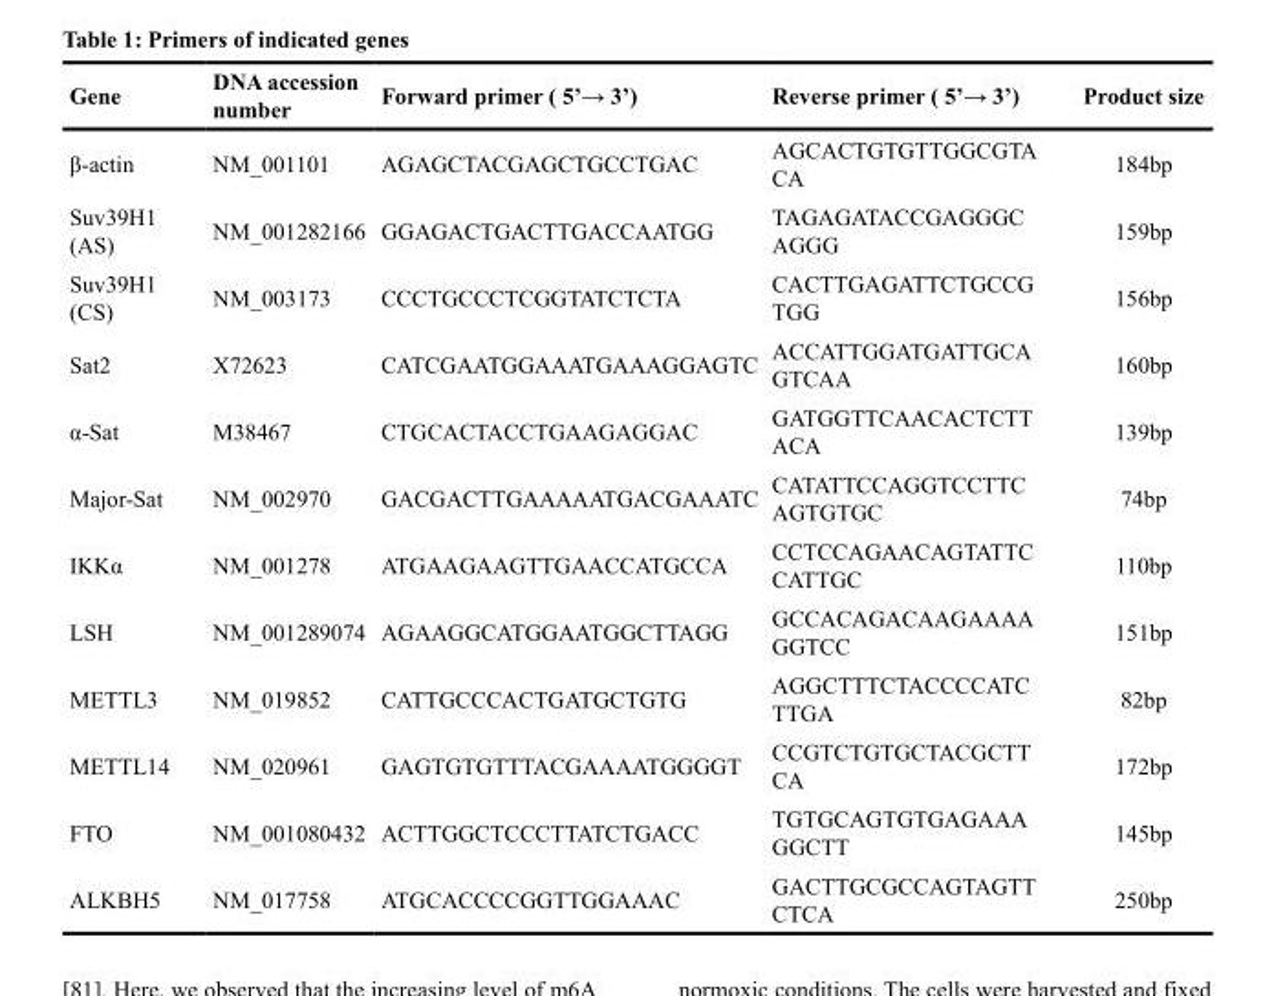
<table><thead><tr><td>Gene</td><td>DNA accession number</td><td>Forward primer ( 5’→ 3’)</td><td>Reverse primer ( 5’→ 3’)</td><td>Product size</td></tr></thead><tbody><tr><td>β-actin</td><td>NM_001101</td><td>AGAGCTACGAGCTGCCTGAC</td><td>AGCACTGTGTTGGCGTA CA</td><td>184bp</td></tr><tr><td>Suv39H1 (AS)</td><td>NM_001282166</td><td>GGAGACTGACTTGACCAATGG</td><td>TAGAGATACCGAGGGC AGGG</td><td>159bp</td></tr><tr><td>Suv39H1 (CS)</td><td>NM_003173</td><td>CCCTGCCCTCGGTATCTCTA</td><td>CACTTGAGATTCTGCCG TGG</td><td>156bp</td></tr><tr><td>Sat2</td><td>X72623</td><td>CATCGAATGGAAATGAAAGGAGTC</td><td>ACCATTGGATGATTGCA GTCAA</td><td>160bp</td></tr><tr><td>α-Sat</td><td>M38467</td><td>CTGCACTACCTGAAGAGGAC</td><td>GATGGTTCAACACTCTT ACA</td><td>139bp</td></tr><tr><td>Major-Sat</td><td>NM_002970</td><td>GACGACTTGAAAAATGACGAAATC</td><td>CATATTCCAGGTCCTTC AGTGTGC</td><td>74bp</td></tr><tr><td>IKKα</td><td>NM_001278</td><td>ATGAAGAAGTTGAACCATGCCA</td><td>CCTCCAGAACAGTATTC CATTGC</td><td>110bp</td></tr><tr><td>LSH</td><td>NM_001289074</td><td>AGAAGGCATGGAATGGCTTAGG</td><td>GCCACAGACAAGAAAA GGTCC</td><td>151bp</td></tr><tr><td>METTL3</td><td>NM_019852</td><td>CATTGCCCACTGATGCTGTG</td><td>AGGCTTTCTACCCCATC TTGA</td><td>82bp</td></tr><tr><td>METTL14</td><td>NM_020961</td><td>GAGTGTGTTTACGAAAATGGGGT</td><td>CCGTCTGTGCTACGCTT CA</td><td>172bp</td></tr><tr><td>FTO</td><td>NM_001080432</td><td>ACTTGGCTCCCTTATCTGACC</td><td>TGTGCAGTGTGAGAAA GGCTT</td><td>145bp</td></tr><tr><td>ALKBH5</td><td>NM_017758</td><td>ATGCACCCCGGTTGGAAAC</td><td>GACTTGCGCCAGTAGTT CTCA</td><td>250bp</td></tr></tbody></table>